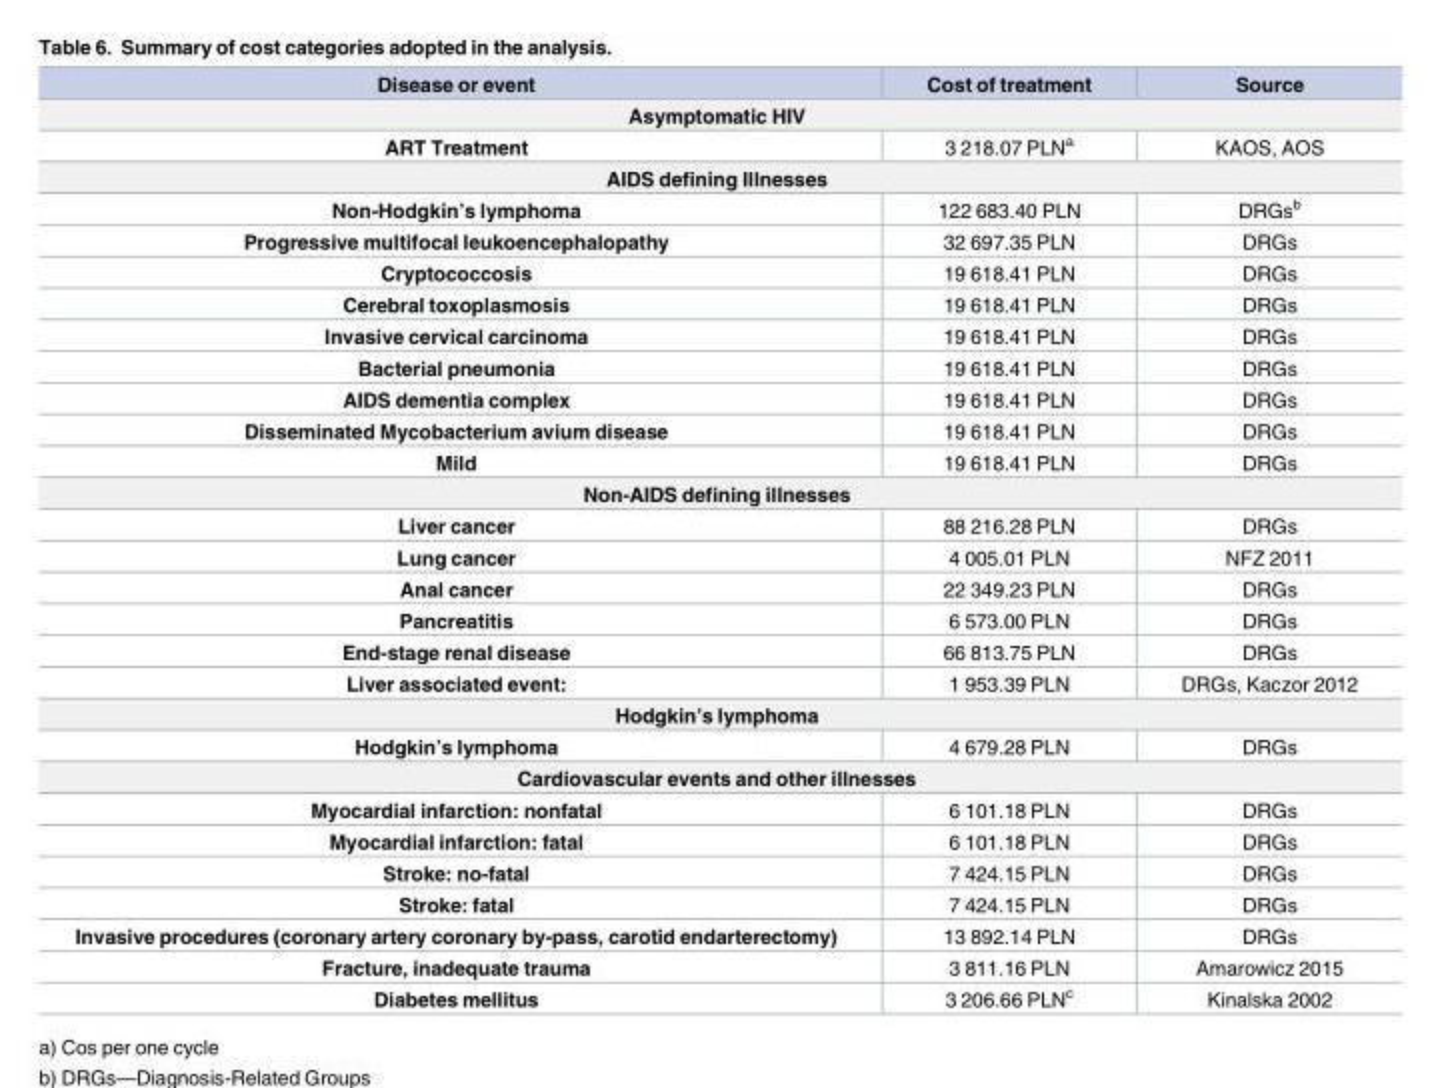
<table><thead><tr><td>Disease or event</td><td>Cost of treatment</td><td>Source</td></tr></thead><tbody><tr><td colspan="3">Asymptomatic HIV</td></tr><tr><td>ART Treatment</td><td>3 218.07 PLN<sup>a</sup></td><td>KAOS, AOS</td></tr><tr><td colspan="3">AIDS defining Illnesses</td></tr><tr><td>Non-Hodgkin’s lymphoma</td><td>122 683.40 PLN</td><td>DRGs<sup>b</sup></td></tr><tr><td>Progressive multifocal leukoencephalopathy</td><td>32 697.35 PLN</td><td>DRGs</td></tr><tr><td>Cryptococcosis</td><td>19 618.41 PLN</td><td>DRGs</td></tr><tr><td>Cerebral toxoplasmosis</td><td>19 618.41 PLN</td><td>DRGs</td></tr><tr><td>Invasive cervical carcinoma</td><td>19 618.41 PLN</td><td>DRGs</td></tr><tr><td>Bacterial pneumonia</td><td>19 618.41 PLN</td><td>DRGs</td></tr><tr><td>AIDS dementia complex</td><td>19 618.41 PLN</td><td>DRGs</td></tr><tr><td>Disseminated Mycobacterium avium disease</td><td>19 618.41 PLN</td><td>DRGs</td></tr><tr><td>Mild</td><td>19 618.41 PLN</td><td>DRGs</td></tr><tr><td colspan="3">Non-AIDS defining illnesses</td></tr><tr><td>Liver cancer</td><td>88 216.28 PLN</td><td>DRGs</td></tr><tr><td>Lung cancer</td><td>4 005.01 PLN</td><td>NFZ 2011</td></tr><tr><td>Anal cancer</td><td>22 349.23 PLN</td><td>DRGs</td></tr><tr><td>Pancreatitis</td><td>6 573.00 PLN</td><td>DRGs</td></tr><tr><td>End-stage renal disease</td><td>66 813.75 PLN</td><td>DRGs</td></tr><tr><td>Liver associated event:</td><td>1 953.39 PLN</td><td>DRGs, Kaczor 2012</td></tr><tr><td colspan="3">Hodgkin’s lymphoma</td></tr><tr><td>Hodgkin’s lymphoma</td><td>4 679.28 PLN</td><td>DRGs</td></tr><tr><td colspan="3">Cardiovascular events and other illnesses</td></tr><tr><td>Myocardial infarction: nonfatal</td><td>6 101.18 PLN</td><td>DRGs</td></tr><tr><td>Myocardial infarction: fatal</td><td>6 101.18 PLN</td><td>DRGs</td></tr><tr><td>Stroke: no-fatal</td><td>7 424.15 PLN</td><td>DRGs</td></tr><tr><td>Stroke: fatal</td><td>7 424.15 PLN</td><td>DRGs</td></tr><tr><td>Invasive procedures (coronary artery coronary by-pass, carotid endarterectomy)</td><td>13 892.14 PLN</td><td>DRGs</td></tr><tr><td>Fracture, inadequate trauma</td><td>3 811.16 PLN</td><td>Amarowicz 2015</td></tr><tr><td>Diabetes mellitus</td><td>3 206.66 PLN<sup>c</sup></td><td>Kinalska 2002</td></tr></tbody></table>